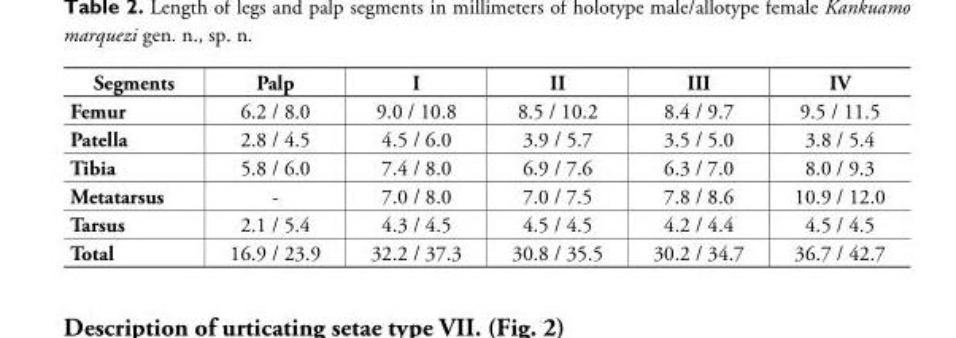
<table><thead><tr><td>Segments</td><td>Palp</td><td>I</td><td>II</td><td>III</td><td>IV</td></tr></thead><tbody><tr><td>Femur</td><td>6.2 / 8.0</td><td>9.0 / 10.8</td><td>8.5 / 10.2</td><td>8.4 / 9.7</td><td>9.5 / 11.5</td></tr><tr><td>Patella</td><td>2.8 / 4.5</td><td>4.5 / 6.0</td><td>3.9 / 5.7</td><td>3.5 / 5.0</td><td>3.8 / 5.4</td></tr><tr><td>Tibia</td><td>5.8 / 6.0</td><td>7.4 / 8.0</td><td>6.9 / 7.6</td><td>6.3 / 7.0</td><td>8.0 / 9.3</td></tr><tr><td>Metatarsus</td><td>-</td><td>7.0 / 8.0</td><td>7.0 / 7.5</td><td>7.8 / 8.6</td><td>10.9 / 12.0</td></tr><tr><td>Tarsus</td><td>2.1 / 5.4</td><td>4.3 / 4.5</td><td>4.5 / 4.5</td><td>4.2 / 4.4</td><td>4.5 / 4.5</td></tr><tr><td>Total</td><td>16.9 / 23.9</td><td>32.2 / 37.3</td><td>30.8 / 35.5</td><td>30.2 / 34.7</td><td>36.7 / 42.7</td></tr></tbody></table>